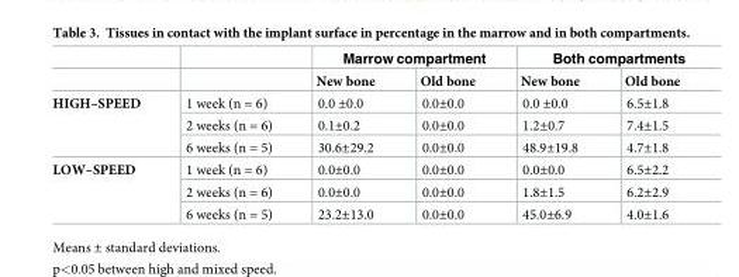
<table><thead><tr><td rowspan="2"></td><td rowspan="2"></td><td colspan="2">Marrow compartment</td><td colspan="2">Both compartments</td></tr><tr><td>New bone</td><td>Old bone</td><td>New bone</td><td>Old bone</td></tr></thead><tbody><tr><td rowspan="3">HIGH–SPEED</td><td>1 week (n = 6)</td><td>0.0 ±0.0</td><td>0.0±0.0</td><td>0.0 ±0.0</td><td>6.5±1.8</td></tr><tr><td>2 weeks (n = 6)</td><td>0.1±0.2</td><td>0.0±0.0</td><td>1.2±0.7</td><td>7.4±1.5</td></tr><tr><td>6 weeks (n = 5)</td><td>30.6±29.2</td><td>0.0±0.0</td><td>48.9±19.8</td><td>4.7±1.8</td></tr><tr><td rowspan="3">LOW–SPEED</td><td>1 week (n = 6)</td><td>0.0±0.0</td><td>0.0±0.0</td><td>0.0±0.0</td><td>6.5±2.2</td></tr><tr><td>2 weeks (n = 6)</td><td>0.0±0.0</td><td>0.0±0.0</td><td>1.8±1.5</td><td>6.2±2.9</td></tr><tr><td>6 weeks (n = 5)</td><td>23.2±13.0</td><td>0.0±0.0</td><td>45.0±6.9</td><td>4.0±1.6</td></tr></tbody></table>